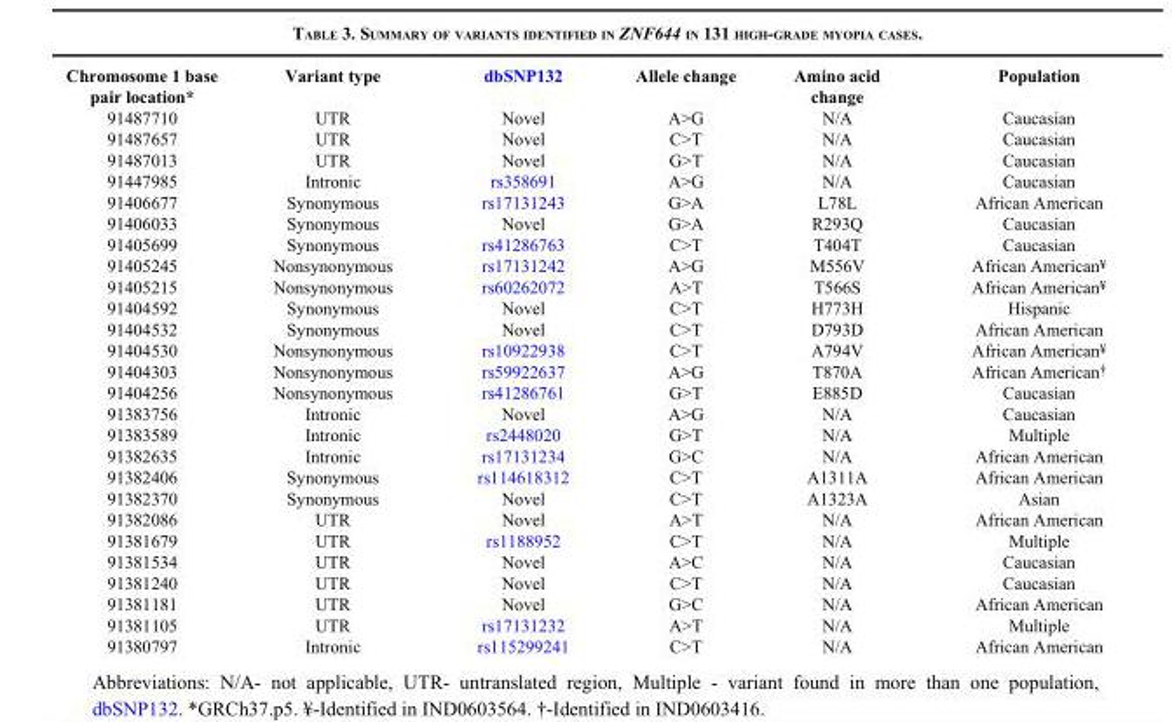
<table><thead><tr><td>Chromosome 1 base pair location*</td><td>Variant type</td><td>dbSNP132</td><td>Allele change</td><td>Amino acid change</td><td>Population</td></tr></thead><tbody><tr><td>91487710</td><td>UTR</td><td>Novel</td><td>A&gt;G</td><td>N/A</td><td>Caucasian</td></tr><tr><td>91487657</td><td>UTR</td><td>Novel</td><td>C&gt;T</td><td>N/A</td><td>Caucasian</td></tr><tr><td>91487013</td><td>UTR</td><td>Novel</td><td>G&gt;T</td><td>N/A</td><td>Caucasian</td></tr><tr><td>91447985</td><td>Intronic</td><td>rs358691</td><td>A&gt;G</td><td>N/A</td><td>Caucasian</td></tr><tr><td>91406677</td><td>Synonymous</td><td>rs17131243</td><td>G&gt;A</td><td>L78L</td><td>African American</td></tr><tr><td>91406033</td><td>Synonymous</td><td>Novel</td><td>G&gt;A</td><td>R293Q</td><td>Caucasian</td></tr><tr><td>91405699</td><td>Synonymous</td><td>rs41286763</td><td>C&gt;T</td><td>T404T</td><td>Caucasian</td></tr><tr><td>91405245</td><td>Nonsynonymous</td><td>rs17131242</td><td>A&gt;G</td><td>M556V</td><td>African American<sup>¥</sup></td></tr><tr><td>91405215</td><td>Nonsynonymous</td><td>rs60262072</td><td>A&gt;T</td><td>T566S</td><td>African American<sup>¥</sup></td></tr><tr><td>91404592</td><td>Synonymous</td><td>Novel</td><td>C&gt;T</td><td>H773H</td><td>Hispanic</td></tr><tr><td>91404532</td><td>Synonymous</td><td>Novel</td><td>C&gt;T</td><td>D793D</td><td>African American</td></tr><tr><td>91404530</td><td>Nonsynonymous</td><td>rs10922938</td><td>C&gt;T</td><td>A794V</td><td>African American<sup>¥</sup></td></tr><tr><td>91404303</td><td>Nonsynonymous</td><td>rs59922637</td><td>A&gt;G</td><td>T870A</td><td>African American<sup>†</sup></td></tr><tr><td>91404256</td><td>Nonsynonymous</td><td>rs41286761</td><td>G&gt;T</td><td>E885D</td><td>Caucasian</td></tr><tr><td>91383756</td><td>Intronic</td><td>Novel</td><td>A&gt;G</td><td>N/A</td><td>Caucasian</td></tr><tr><td>91383589</td><td>Intronic</td><td>rs2448020</td><td>G&gt;T</td><td>N/A</td><td>Multiple</td></tr><tr><td>91382635</td><td>Intronic</td><td>rs17131234</td><td>G&gt;C</td><td>N/A</td><td>African American</td></tr><tr><td>91382406</td><td>Synonymous</td><td>rs114618312</td><td>C&gt;T</td><td>A1311A</td><td>African American</td></tr><tr><td>91382370</td><td>Synonymous</td><td>Novel</td><td>C&gt;T</td><td>A1323A</td><td>Asian</td></tr><tr><td>91382086</td><td>UTR</td><td>Novel</td><td>A&gt;T</td><td>N/A</td><td>African American</td></tr><tr><td>91381679</td><td>UTR</td><td>rs1188952</td><td>C&gt;T</td><td>N/A</td><td>Multiple</td></tr><tr><td>91381534</td><td>UTR</td><td>Novel</td><td>A&gt;C</td><td>N/A</td><td>Caucasian</td></tr><tr><td>91381240</td><td>UTR</td><td>Novel</td><td>C&gt;T</td><td>N/A</td><td>Caucasian</td></tr><tr><td>91381181</td><td>UTR</td><td>Novel</td><td>G&gt;C</td><td>N/A</td><td>African American</td></tr><tr><td>91381105</td><td>UTR</td><td>rs17131232</td><td>A&gt;T</td><td>N/A</td><td>Multiple</td></tr><tr><td>91380797</td><td>Intronic</td><td>rs115299241</td><td>C&gt;T</td><td>N/A</td><td>African American</td></tr></tbody></table>